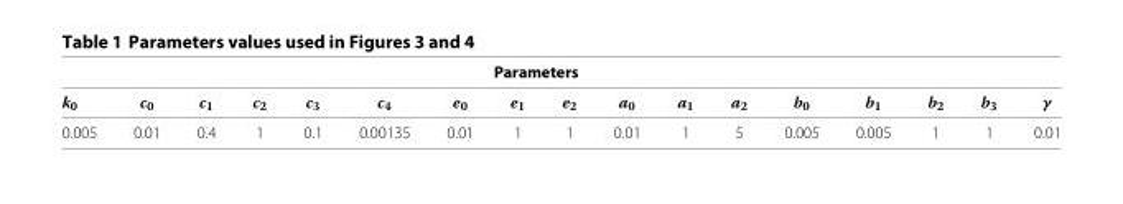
<table><thead><tr><td colspan="17">Parameters</td></tr><tr><td>k<sub>0</sub></td><td>c<sub>0</sub></td><td>c<sub>1</sub></td><td>c<sub>2</sub></td><td>c<sub>3</sub></td><td>c<sub>4</sub></td><td>e<sub>0</sub></td><td>e<sub>1</sub></td><td>e<sub>2</sub></td><td>a<sub>0</sub></td><td>a<sub>1</sub></td><td>a<sub>2</sub></td><td>b<sub>0</sub></td><td>b<sub>1</sub></td><td>b<sub>2</sub></td><td>b<sub>3</sub></td><td>γ</td></tr></thead><tbody><tr><td>0.005</td><td>0.01</td><td>0.4</td><td>1</td><td>0.1</td><td>0.00135</td><td>0.01</td><td>1</td><td>1</td><td>0.01</td><td>1</td><td>5</td><td>0.005</td><td>0.005</td><td>1</td><td>1</td><td>0.01</td></tr></tbody></table>